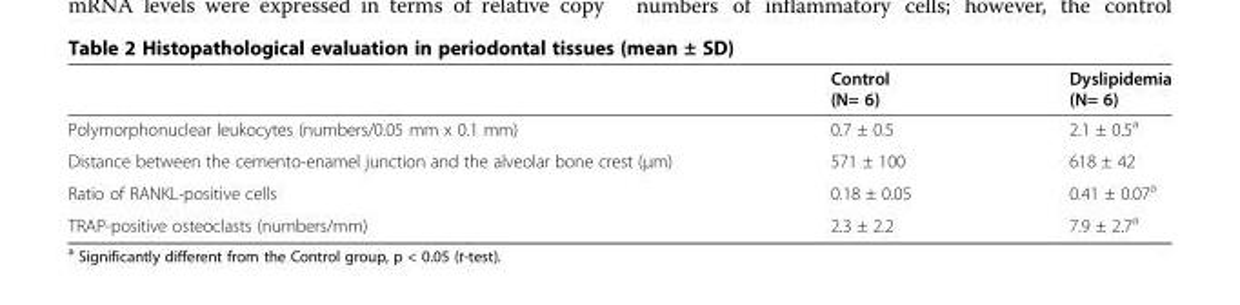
<table><thead><tr><td></td><td>Control (N= 6)</td><td>Dyslipidemia (N= 6)</td></tr></thead><tbody><tr><td>Polymorphonuclear leukocytes (numbers/0.05 mm x 0.1 mm)</td><td>0.7 ± 0.5</td><td>2.1 ± 0.5<sup>a</sup></td></tr><tr><td>Distance between the cemento-enamel junction and the alveolar bone crest (μm)</td><td>571 ± 100</td><td>618 ± 42</td></tr><tr><td>Ratio of RANKL-positive cells</td><td>0.18 ± 0.05</td><td>0.41 ± 0.07<sup>a</sup></td></tr><tr><td>TRAP-positive osteoclasts (numbers/mm)</td><td>2.3 ± 2.2</td><td>7.9 ± 2.7<sup>a</sup></td></tr></tbody></table>